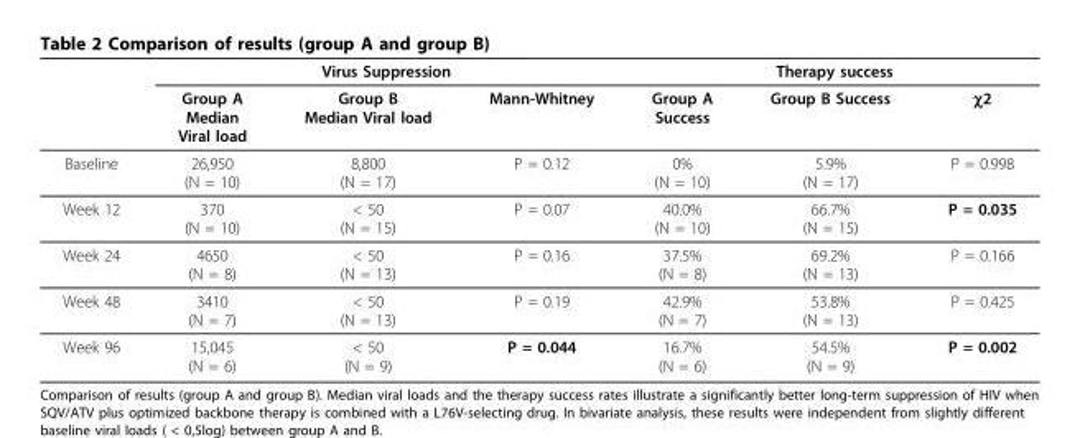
<table><thead><tr><td rowspan="2"></td><td colspan="3">Virus Suppression</td><td colspan="3">Therapy success</td></tr><tr><td>Group A Median Viral load</td><td>Group B Median Viral load</td><td>Mann-Whitney</td><td>Group A Success</td><td>Group B Success</td><td>χ2</td></tr></thead><tbody><tr><td>Baseline</td><td>26,950 (N = 10)</td><td>8,800 (N = 17)</td><td>P = 0.12</td><td>0% (N = 10)</td><td>5.9% (N = 17)</td><td>P = 0.998</td></tr><tr><td>Week 12</td><td>370 (N = 10)</td><td>&lt; 50 (N = 15)</td><td>P = 0.07</td><td>40.0% (N = 10)</td><td>66.7% (N = 15)</td><td>P = 0.035</td></tr><tr><td>Week 24</td><td>4650 (N = 8)</td><td>&lt; 50 (N = 13)</td><td>P = 0.16</td><td>37.5% (N = 8)</td><td>69.2% (N = 13)</td><td>P = 0.166</td></tr><tr><td>Week 48</td><td>3410 (N = 7)</td><td>&lt; 50 (N = 13)</td><td>P = 0.19</td><td>42.9% (N = 7)</td><td>53.8% (N = 13)</td><td>P = 0.425</td></tr><tr><td>Week 96</td><td>15,045 (N = 6)</td><td>&lt; 50 (N = 9)</td><td>P = 0.044</td><td>16.7% (N = 6)</td><td>54.5% (N = 9)</td><td>P = 0.002</td></tr></tbody></table>